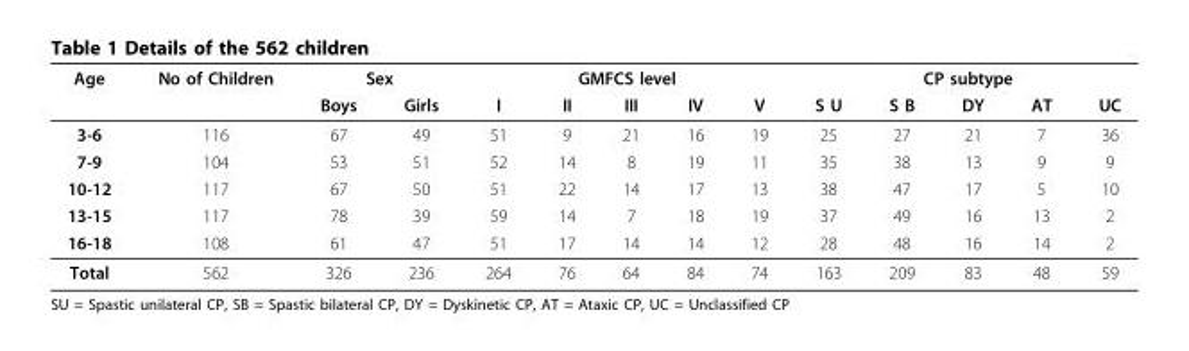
<table><thead><tr><td rowspan="2">Age</td><td rowspan="2">No of Children</td><td colspan="2">Sex</td><td colspan="5">GMFCS level</td><td colspan="5">CP subtype</td></tr><tr><td>Boys</td><td>Girls</td><td>I</td><td>II</td><td>III</td><td>IV</td><td>V</td><td>S U</td><td>S B</td><td>DY</td><td>AT</td><td>UC</td></tr></thead><tbody><tr><td>3-6</td><td>116</td><td>67</td><td>49</td><td>51</td><td>9</td><td>21</td><td>16</td><td>19</td><td>25</td><td>27</td><td>21</td><td>7</td><td>36</td></tr><tr><td>7-9</td><td>104</td><td>53</td><td>51</td><td>52</td><td>14</td><td>8</td><td>19</td><td>11</td><td>35</td><td>38</td><td>13</td><td>9</td><td>9</td></tr><tr><td>10-12</td><td>117</td><td>67</td><td>50</td><td>51</td><td>22</td><td>14</td><td>17</td><td>13</td><td>38</td><td>47</td><td>17</td><td>5</td><td>10</td></tr><tr><td>13-15</td><td>117</td><td>78</td><td>39</td><td>59</td><td>14</td><td>7</td><td>18</td><td>19</td><td>37</td><td>49</td><td>16</td><td>13</td><td>2</td></tr><tr><td>16-18</td><td>108</td><td>61</td><td>47</td><td>51</td><td>17</td><td>14</td><td>14</td><td>12</td><td>28</td><td>48</td><td>16</td><td>14</td><td>2</td></tr><tr><td>Total</td><td>562</td><td>326</td><td>236</td><td>264</td><td>76</td><td>64</td><td>84</td><td>74</td><td>163</td><td>209</td><td>83</td><td>48</td><td>59</td></tr></tbody></table>